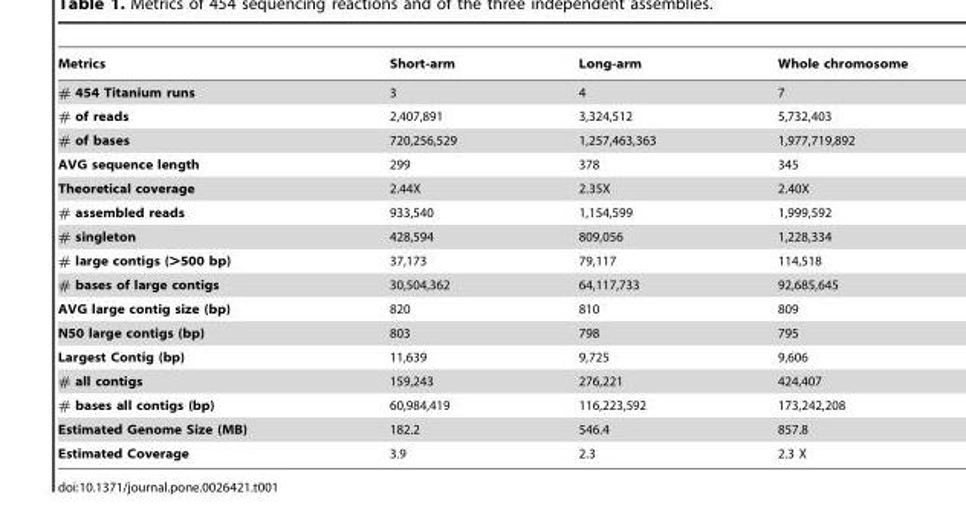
<table><thead><tr><td>Metrics</td><td>Short-arm</td><td>Long-arm</td><td>Whole chromosome</td></tr></thead><tbody><tr><td># 454 Titanium runs</td><td>3</td><td>4</td><td>7</td></tr><tr><td># of reads</td><td>2,407,891</td><td>3,324,512</td><td>5,732,403</td></tr><tr><td># of bases</td><td>720,256,529</td><td>1,257,463,363</td><td>1,977,719,892</td></tr><tr><td>AVG sequence length</td><td>299</td><td>378</td><td>345</td></tr><tr><td>Theoretical coverage</td><td>2.44X</td><td>2.35X</td><td>2.40X</td></tr><tr><td># assembled reads</td><td>933,540</td><td>1,154,599</td><td>1,999,592</td></tr><tr><td># singleton</td><td>428,594</td><td>809,056</td><td>1,228,334</td></tr><tr><td># large contigs (&gt;500 bp)</td><td>37,173</td><td>79,117</td><td>114,518</td></tr><tr><td># bases of large contigs</td><td>30,504,362</td><td>64,117,733</td><td>92,685,645</td></tr><tr><td>AVG large contig size (bp)</td><td>820</td><td>810</td><td>809</td></tr><tr><td>N50 large contigs (bp)</td><td>803</td><td>798</td><td>795</td></tr><tr><td>Largest Contig (bp)</td><td>11,639</td><td>9,725</td><td>9,606</td></tr><tr><td># all contigs</td><td>159,243</td><td>276,221</td><td>424,407</td></tr><tr><td># bases all contigs (bp)</td><td>60,984,419</td><td>116,223,592</td><td>173,242,208</td></tr><tr><td>Estimated Genome Size (MB)</td><td>182.2</td><td>546.4</td><td>857.8</td></tr><tr><td>Estimated Coverage</td><td>3.9</td><td>2.3</td><td>2.3 X</td></tr></tbody></table>